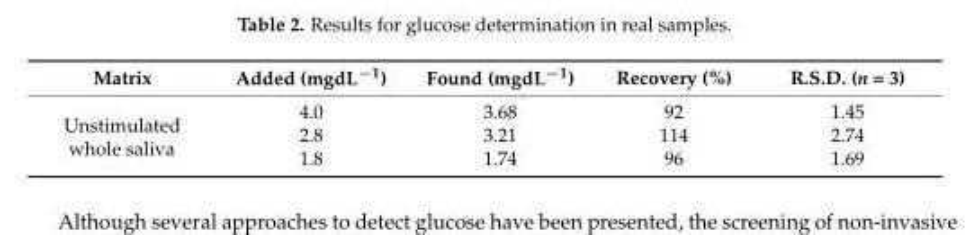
<table><thead><tr><td>Matrix</td><td>Added (mgdL<sup>−1</sup>)</td><td>Found (mgdL<sup>−1</sup>)</td><td>Recovery (%)</td><td>R.S.D. (n = 3)</td></tr></thead><tbody><tr><td rowspan="3">Unstimulated whole saliva</td><td>4.0</td><td>3.68</td><td>92</td><td>1.45</td></tr><tr><td>2.8</td><td>3.21</td><td>114</td><td>2.74</td></tr><tr><td>1.8</td><td>1.74</td><td>96</td><td>1.69</td></tr></tbody></table>